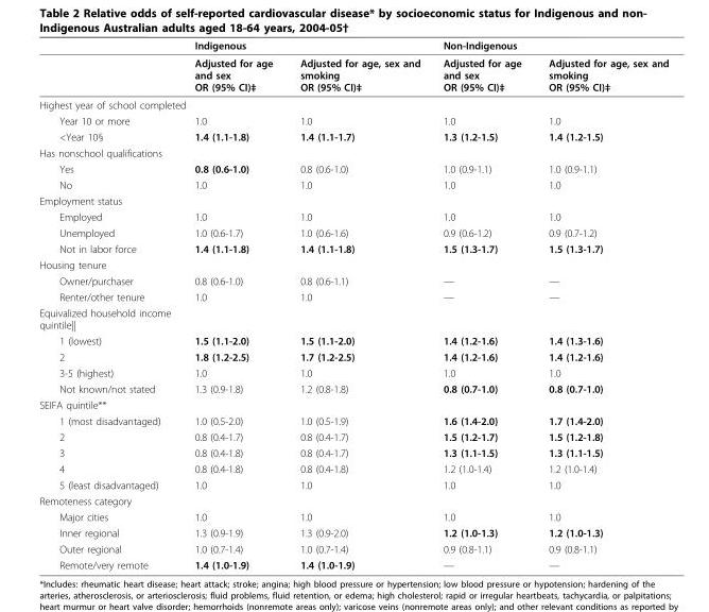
<table><thead><tr><td rowspan="2"></td><td colspan="2">Indigenous</td><td colspan="2">Non-Indigenous</td></tr><tr><td>Adjusted for age and sex OR (95% CI)‡</td><td>Adjusted for age, sex and smoking OR (95% CI)‡</td><td>Adjusted for age and sex OR (95% CI)‡</td><td>Adjusted for age, sex and smoking OR (95% CI)‡</td></tr></thead><tbody><tr><td colspan="5">Highest year of school completed</td></tr><tr><td>Year 10 or more</td><td>1.0</td><td>1.0</td><td>1.0</td><td>1.0</td></tr><tr><td>&lt;Year 10§</td><td>1.4 (1.1-1.8)</td><td>1.4 (1.1-1.7)</td><td>1.3 (1.2-1.5)</td><td>1.4 (1.2-1.5)</td></tr><tr><td colspan="5">Has nonschool qualifications</td></tr><tr><td>Yes</td><td>0.8 (0.6-1.0)</td><td>0.8 (0.6-1.0)</td><td>1.0 (0.9-1.1)</td><td>1.0 (0.9-1.1)</td></tr><tr><td>No</td><td>1.0</td><td>1.0</td><td>1.0</td><td>1.0</td></tr><tr><td colspan="5">Employment status</td></tr><tr><td>Employed</td><td>1.0</td><td>1.0</td><td>1.0</td><td>1.0</td></tr><tr><td>Unemployed</td><td>1.0 (0.6-1.7)</td><td>1.0 (0.6-1.6)</td><td>0.9 (0.6-1.2)</td><td>0.9 (0.7-1.2)</td></tr><tr><td>Not in labor force</td><td>1.4 (1.1-1.8)</td><td>1.4 (1.1-1.8)</td><td>1.5 (1.3-1.7)</td><td>1.5 (1.3-1.7)</td></tr><tr><td colspan="5">Housing tenure</td></tr><tr><td>Owner/purchaser</td><td>0.8 (0.6-1.0)</td><td>0.8 (0.6-1.1)</td><td>—</td><td>—</td></tr><tr><td>Renter/other tenure</td><td>1.0</td><td>1.0</td><td>—</td><td>—</td></tr><tr><td colspan="5">Equivalized household income quintile||</td></tr><tr><td>1 (lowest)</td><td>1.5 (1.1-2.0)</td><td>1.5 (1.1-2.0)</td><td>1.4 (1.2-1.6)</td><td>1.4 (1.3-1.6)</td></tr><tr><td>2</td><td>1.8 (1.2-2.5)</td><td>1.7 (1.2-2.5)</td><td>1.4 (1.2-1.6)</td><td>1.4 (1.2-1.6)</td></tr><tr><td>3-5 (highest)</td><td>1.0</td><td>1.0</td><td>1.0</td><td>1.0</td></tr><tr><td>Not known/not stated</td><td>1.3 (0.9-1.8)</td><td>1.2 (0.8-1.8)</td><td>0.8 (0.7-1.0)</td><td>0.8 (0.7-1.0)</td></tr><tr><td colspan="5">SEIFA quintile**</td></tr><tr><td>1 (most disadvantaged)</td><td>1.0 (0.5-2.0)</td><td>1.0 (0.5-1.9)</td><td>1.6 (1.4-2.0)</td><td>1.7 (1.4-2.0)</td></tr><tr><td>2</td><td>0.8 (0.4-1.7)</td><td>0.8 (0.4-1.7)</td><td>1.5 (1.2-1.7)</td><td>1.5 (1.2-1.8)</td></tr><tr><td>3</td><td>0.8 (0.4-1.8)</td><td>0.8 (0.4-1.7)</td><td>1.3 (1.1-1.5)</td><td>1.3 (1.1-1.5)</td></tr><tr><td>4</td><td>0.8 (0.4-1.8)</td><td>0.8 (0.4-1.8)</td><td>1.2 (1.0-1.4)</td><td>1.2 (1.0-1.4)</td></tr><tr><td>5 (least disadvantaged)</td><td>1.0</td><td>1.0</td><td>1.0</td><td>1.0</td></tr><tr><td colspan="5">Remoteness category</td></tr><tr><td>Major cities</td><td>1.0</td><td>1.0</td><td>1.0</td><td>1.0</td></tr><tr><td>Inner regional</td><td>1.3 (0.9-1.9)</td><td>1.3 (0.9-2.0)</td><td>1.2 (1.0-1.3)</td><td>1.2 (1.0-1.3)</td></tr><tr><td>Outer regional</td><td>1.0 (0.7-1.4)</td><td>1.0 (0.7-1.4)</td><td>0.9 (0.8-1.1)</td><td>0.9 (0.8-1.1)</td></tr><tr><td>Remote/very remote</td><td>1.4 (1.0-1.9)</td><td>1.4 (1.0-1.9)</td><td>—</td><td>—</td></tr></tbody></table>